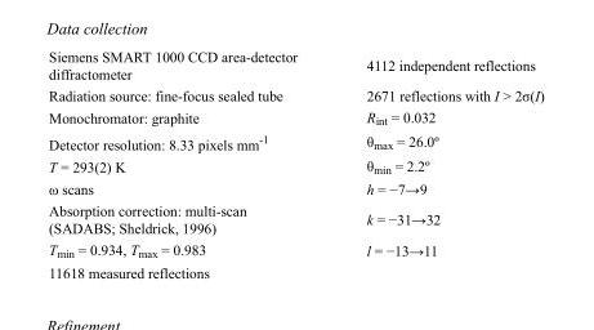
<table><tbody><tr><td>Siemens SMART 1000 CCD area-detector diffractometer</td><td>4112 independent reflections</td></tr><tr><td>Radiation source: fine-focus sealed tube</td><td>2671 reflections with I &gt; 2σ(I)</td></tr><tr><td>Monochromator: graphite</td><td>R<sub>int</sub> = 0.032</td></tr><tr><td>Detector resolution: 8.33 pixels mm<sup>-1</sup></td><td>θ<sub>max</sub> = 26.0º</td></tr><tr><td>T = 293(2) K</td><td>θ<sub>min</sub> = 2.2º</td></tr><tr><td>ω scans</td><td>h = −7→9</td></tr><tr><td>Absorption correction: multi-scan (SADABS; Sheldrick, 1996)</td><td>k = −31→32</td></tr><tr><td>T<sub>min</sub> = 0.934, T<sub>max</sub> = 0.983</td><td>l = −13→11</td></tr><tr><td>11618 measured reflections</td><td></td></tr></tbody></table>